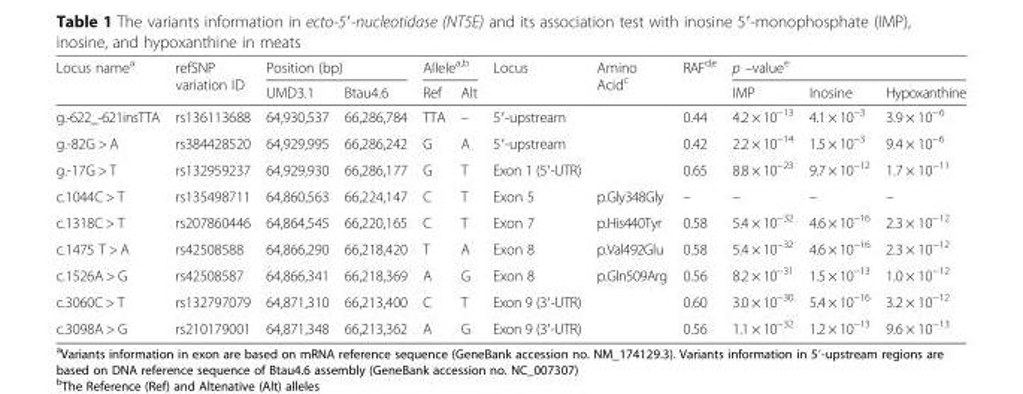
<table><thead><tr><td rowspan="2">Locus name<sup>a</sup></td><td rowspan="2">refSNP variation ID</td><td colspan="2">Position (bp)</td><td colspan="2">Allele<sup>a,b</sup></td><td rowspan="2">Locus</td><td rowspan="2">Amino Acid<sup>c</sup></td><td rowspan="2">RAF<sup>d,e</sup></td><td colspan="3">p –value<sup>e</sup></td></tr><tr><td>UMD3.1</td><td>Btau4.6</td><td>Ref</td><td>Alt</td><td>IMP</td><td>Inosine</td><td>Hypoxanthine</td></tr></thead><tbody><tr><td>g.-622_-621insTTA</td><td>rs136113688</td><td>64,930,537</td><td>66,286,784</td><td>TTA</td><td>–</td><td>5′-upstream</td><td></td><td>0.44</td><td>4.2 × 10<sup>−13</sup></td><td>4.1 × 10<sup>−3</sup></td><td>3.9 × 10<sup>−6</sup></td></tr><tr><td>g.-82G &gt; A</td><td>rs384428520</td><td>64,929,995</td><td>66,286,242</td><td>G</td><td>A</td><td>5′-upstream</td><td></td><td>0.42</td><td>2.2 × 10<sup>−14</sup></td><td>1.5 × 10<sup>−3</sup></td><td>9.4 × 10<sup>−6</sup></td></tr><tr><td>g.-17G &gt; T</td><td>rs132959237</td><td>64,929,930</td><td>66,286,177</td><td>G</td><td>T</td><td>Exon 1 (5′-UTR)</td><td></td><td>0.65</td><td>8.8 × 10<sup>−23</sup></td><td>9.7 × 10<sup>−12</sup></td><td>1.7 × 10<sup>−11</sup></td></tr><tr><td>c.1044C &gt; T</td><td>rs135498711</td><td>64,860,563</td><td>66,224,147</td><td>C</td><td>T</td><td>Exon 5</td><td>p.Gly348Gly</td><td>–</td><td>–</td><td>–</td><td>–</td></tr><tr><td>c.1318C &gt; T</td><td>rs207860446</td><td>64,864,545</td><td>66,220,165</td><td>C</td><td>T</td><td>Exon 7</td><td>p.His440Tyr</td><td>0.58</td><td>5.4 × 10<sup>−32</sup></td><td>4.6 × 10<sup>−16</sup></td><td>2.3 × 10<sup>−12</sup></td></tr><tr><td>c.1475 T &gt; A</td><td>rs42508588</td><td>64,866,290</td><td>66,218,420</td><td>T</td><td>A</td><td>Exon 8</td><td>p.Val492Glu</td><td>0.58</td><td>5.4 × 10<sup>−32</sup></td><td>4.6 × 10<sup>−16</sup></td><td>2.3 × 10<sup>−12</sup></td></tr><tr><td>c.1526A &gt; G</td><td>rs42508587</td><td>64,866,341</td><td>66,218,369</td><td>A</td><td>G</td><td>Exon 8</td><td>p.Gln509Arg</td><td>0.56</td><td>8.2 × 10<sup>−31</sup></td><td>1.5 × 10<sup>−13</sup></td><td>1.0 × 10<sup>−12</sup></td></tr><tr><td>c.3060C &gt; T</td><td>rs132797079</td><td>64,871,310</td><td>66,213,400</td><td>C</td><td>T</td><td>Exon 9 (3′-UTR)</td><td></td><td>0.60</td><td>3.0 × 10<sup>−30</sup></td><td>5.4 × 10<sup>−16</sup></td><td>3.2 × 10<sup>−12</sup></td></tr><tr><td>c.3098A &gt; G</td><td>rs210179001</td><td>64,871,348</td><td>66,213,362</td><td>A</td><td>G</td><td>Exon 9 (3′-UTR)</td><td></td><td>0.56</td><td>1.1 × 10<sup>−32</sup></td><td>1.2 × 10<sup>−13</sup></td><td>9.6 × 10<sup>−13</sup></td></tr></tbody></table>